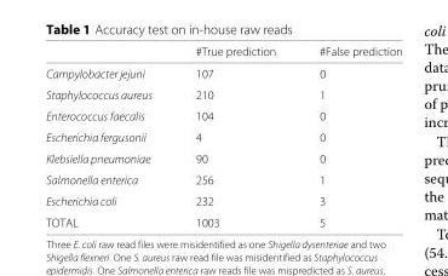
<table><thead><tr><td></td><td>#True prediction</td><td>#False prediction</td></tr></thead><tbody><tr><td>Campylobacter jejuni</td><td>107</td><td>0</td></tr><tr><td>Staphylococcus aureus</td><td>210</td><td>1</td></tr><tr><td>Enterococcus faecalis</td><td>104</td><td>0</td></tr><tr><td>Escherichia fergusonii</td><td>4</td><td>0</td></tr><tr><td>Klebsiella pneumoniae</td><td>90</td><td>0</td></tr><tr><td>Salmonella enterica</td><td>256</td><td>1</td></tr><tr><td>Escherichia coli</td><td>232</td><td>3</td></tr><tr><td>TOTAL</td><td>1003</td><td>5</td></tr></tbody></table>